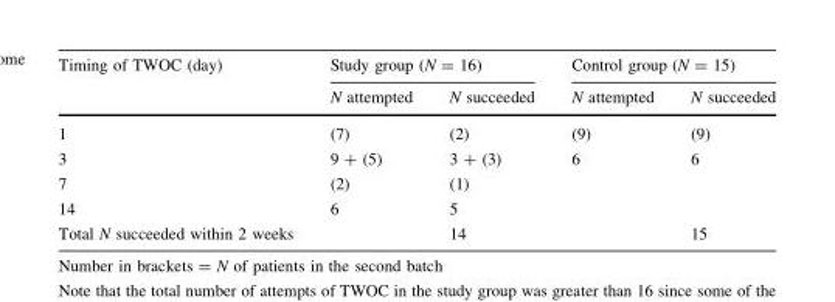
<table><thead><tr><td rowspan="2">Timing of TWOC (day)</td><td colspan="2">Study group (N = 16)</td><td colspan="2">Control group (N = 15)</td></tr><tr><td>N attempted</td><td>N succeeded</td><td>N attempted</td><td>N succeeded</td></tr></thead><tbody><tr><td>1</td><td>(7)</td><td>(2)</td><td>(9)</td><td>(9)</td></tr><tr><td>3</td><td>9 + (5)</td><td>3 + (3)</td><td>6</td><td>6</td></tr><tr><td>7</td><td>(2)</td><td>(1)</td><td></td><td></td></tr><tr><td>14</td><td>6</td><td>5</td><td></td><td></td></tr><tr><td>Total N succeeded within 2 weeks</td><td></td><td>14</td><td></td><td>15</td></tr></tbody></table>